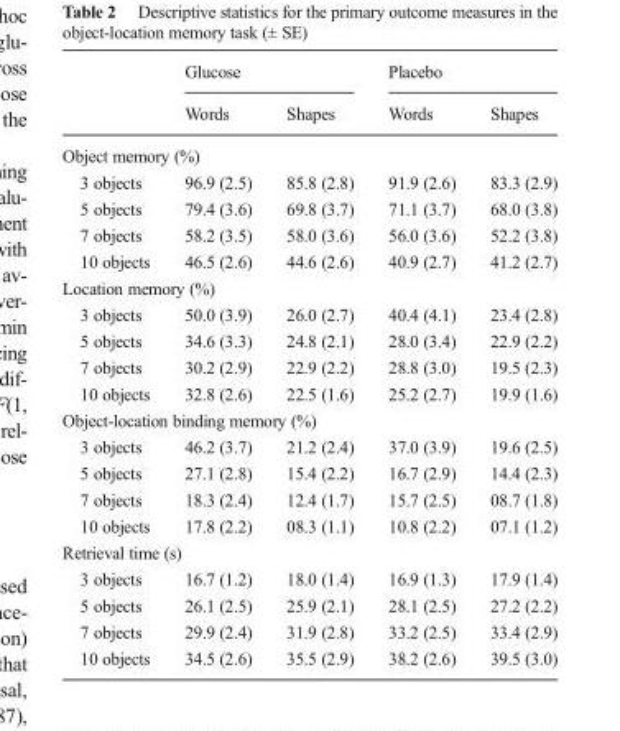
<table><thead><tr><td rowspan="2"></td><td colspan="2">Glucose</td><td colspan="2">Placebo</td></tr><tr><td>Words</td><td>Shapes</td><td>Words</td><td>Shapes</td></tr></thead><tbody><tr><td colspan="5">Object memory (%)</td></tr><tr><td>3 objects</td><td>96.9 (2.5)</td><td>85.8 (2.8)</td><td>91.9 (2.6)</td><td>83.3 (2.9)</td></tr><tr><td>5 objects</td><td>79.4 (3.6)</td><td>69.8 (3.7)</td><td>71.1 (3.7)</td><td>68.0 (3.8)</td></tr><tr><td>7 objects</td><td>58.2 (3.5)</td><td>58.0 (3.6)</td><td>56.0 (3.6)</td><td>52.2 (3.8)</td></tr><tr><td>10 objects</td><td>46.5 (2.6)</td><td>44.6 (2.6)</td><td>40.9 (2.7)</td><td>41.2 (2.7)</td></tr><tr><td colspan="5">Location memory (%)</td></tr><tr><td>3 objects</td><td>50.0 (3.9)</td><td>26.0 (2.7)</td><td>40.4 (4.1)</td><td>23.4 (2.8)</td></tr><tr><td>5 objects</td><td>34.6 (3.3)</td><td>24.8 (2.1)</td><td>28.0 (3.4)</td><td>22.9 (2.2)</td></tr><tr><td>7 objects</td><td>30.2 (2.9)</td><td>22.9 (2.2)</td><td>28.8 (3.0)</td><td>19.5 (2.3)</td></tr><tr><td>10 objects</td><td>32.8 (2.6)</td><td>22.5 (1.6)</td><td>25.2 (2.7)</td><td>19.9 (1.6)</td></tr><tr><td colspan="5">Object-location binding memory (%)</td></tr><tr><td>3 objects</td><td>46.2 (3.7)</td><td>21.2 (2.4)</td><td>37.0 (3.9)</td><td>19.6 (2.5)</td></tr><tr><td>5 objects</td><td>27.1 (2.8)</td><td>15.4 (2.2)</td><td>16.7 (2.9)</td><td>14.4 (2.3)</td></tr><tr><td>7 objects</td><td>18.3 (2.4)</td><td>12.4 (1.7)</td><td>15.7 (2.5)</td><td>08.7 (1.8)</td></tr><tr><td>10 objects</td><td>17.8 (2.2)</td><td>08.3 (1.1)</td><td>10.8 (2.2)</td><td>07.1 (1.2)</td></tr><tr><td colspan="5">Retrieval time (s)</td></tr><tr><td>3 objects</td><td>16.7 (1.2)</td><td>18.0 (1.4)</td><td>16.9 (1.3)</td><td>17.9 (1.4)</td></tr><tr><td>5 objects</td><td>26.1 (2.5)</td><td>25.9 (2.1)</td><td>28.1 (2.5)</td><td>27.2 (2.2)</td></tr><tr><td>7 objects</td><td>29.9 (2.4)</td><td>31.9 (2.8)</td><td>33.2 (2.5)</td><td>33.4 (2.9)</td></tr><tr><td>10 objects</td><td>34.5 (2.6)</td><td>35.5 (2.9)</td><td>38.2 (2.6)</td><td>39.5 (3.0)</td></tr></tbody></table>